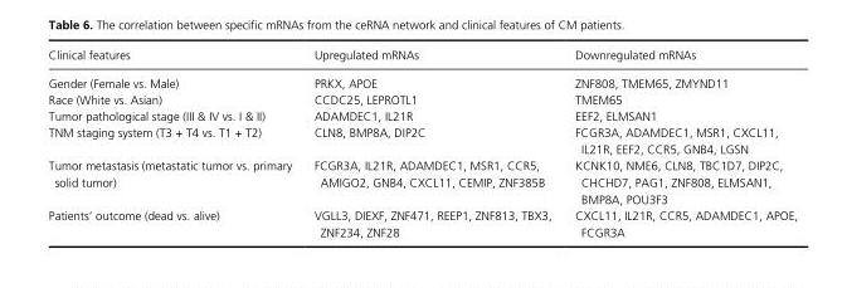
<table><thead><tr><td>Clinical features</td><td>Upregulated mRNAs</td><td>Downregulated mRNAs</td></tr></thead><tbody><tr><td>Gender (Female vs. Male)</td><td>PRKX, APOE</td><td>ZNF808, TMEM65, ZMYND11</td></tr><tr><td>Race (White vs. Asian)</td><td>CCDC25, LEPROTL1</td><td>TMEM65</td></tr><tr><td>Tumor pathological stage (III &amp; IV vs. I &amp; II)</td><td>ADAMDEC1, IL21R</td><td>EEF2, ELMSAN1</td></tr><tr><td>TNM staging system (T3 + T4 vs. T1 + T2)</td><td>CLN8, BMP8A, DIP2C</td><td>FCGR3A, ADAMDEC1, MSR1, CXCL11, IL21R, EEF2, CCR5, GNB4, LGSN</td></tr><tr><td>Tumor metastasis (metastatic tumor vs. primary solid tumor)</td><td>FCGR3A, IL21R, ADAMDEC1, MSR1, CCR5, AMIGO2, GNB4, CXCL11, CEMIP, ZNF385B</td><td>KCNK10, NME6, CLN8, TBC1D7, DIP2C, CHCHD7, PAG1, ZNF808, ELMSAN1, BMP8A, POU3F3</td></tr><tr><td>Patients’ outcome (dead vs. alive)</td><td>VGLL3, DIEXF, ZNF471, REEP1, ZNF813, TBX3, ZNF234, ZNF28</td><td>CXCL11, IL21R, CCR5, ADAMDEC1, APOE, FCGR3A</td></tr></tbody></table>